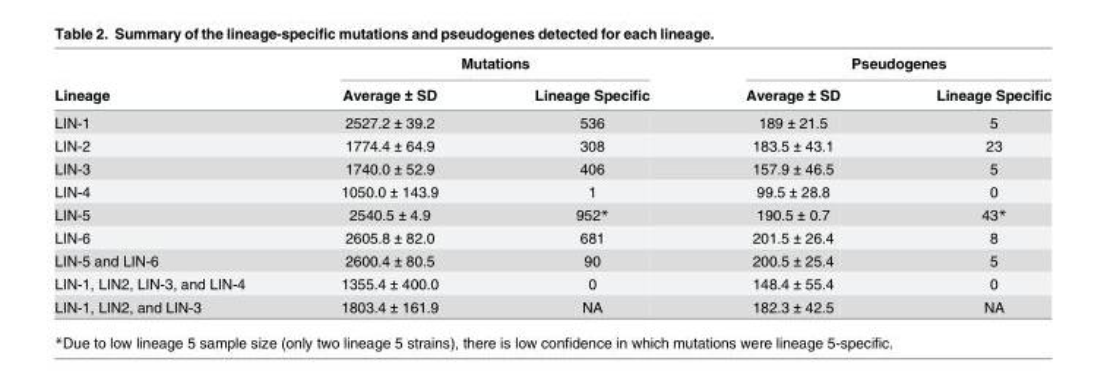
<table><thead><tr><td rowspan="2">Lineage</td><td colspan="2">Mutations</td><td colspan="2">Pseudogenes</td></tr><tr><td>Average ± SD</td><td>Lineage Specific</td><td>Average ± SD</td><td>Lineage Specific</td></tr></thead><tbody><tr><td>LIN-1</td><td>2527.2 ± 39.2</td><td>536</td><td>189 ± 21.5</td><td>5</td></tr><tr><td>LIN-2</td><td>1774.4 ± 64.9</td><td>308</td><td>183.5 ± 43.1</td><td>23</td></tr><tr><td>LIN-3</td><td>1740.0 ± 52.9</td><td>406</td><td>157.9 ± 46.5</td><td>5</td></tr><tr><td>LIN-4</td><td>1050.0 ± 143.9</td><td>1</td><td>99.5 ± 28.8</td><td>0</td></tr><tr><td>LIN-5</td><td>2540.5 ± 4.9</td><td>952*</td><td>190.5 ± 0.7</td><td>43*</td></tr><tr><td>LIN-6</td><td>2605.8 ± 82.0</td><td>681</td><td>201.5 ± 26.4</td><td>8</td></tr><tr><td>LIN-5 and LIN-6</td><td>2600.4 ± 80.5</td><td>90</td><td>200.5 ± 25.4</td><td>5</td></tr><tr><td>LIN-1, LIN2, LIN-3, and LIN-4</td><td>1355.4 ± 400.0</td><td>0</td><td>148.4 ± 55.4</td><td>0</td></tr><tr><td>LIN-1, LIN2, and LIN-3</td><td>1803.4 ± 161.9</td><td>NA</td><td>182.3 ± 42.5</td><td>NA</td></tr></tbody></table>